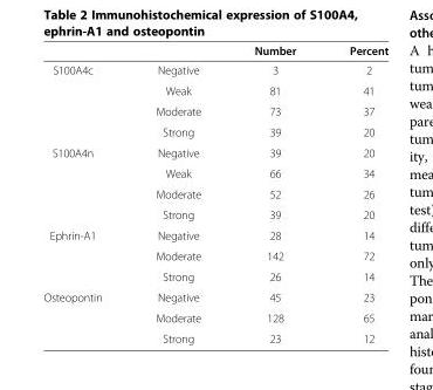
<table><thead><tr><td></td><td></td><td>Number</td><td>Percent</td></tr></thead><tbody><tr><td rowspan="4">S100A4c</td><td>Negative</td><td>3</td><td>2</td></tr><tr><td>Weak</td><td>81</td><td>41</td></tr><tr><td>Moderate</td><td>73</td><td>37</td></tr><tr><td>Strong</td><td>39</td><td>20</td></tr><tr><td rowspan="4">S100A4n</td><td>Negative</td><td>39</td><td>20</td></tr><tr><td>Weak</td><td>66</td><td>34</td></tr><tr><td>Moderate</td><td>52</td><td>26</td></tr><tr><td>Strong</td><td>39</td><td>20</td></tr><tr><td rowspan="3">Ephrin-A1</td><td>Negative</td><td>28</td><td>14</td></tr><tr><td>Moderate</td><td>142</td><td>72</td></tr><tr><td>Strong</td><td>26</td><td>14</td></tr><tr><td rowspan="3">Osteopontin</td><td>Negative</td><td>45</td><td>23</td></tr><tr><td>Moderate</td><td>128</td><td>65</td></tr><tr><td>Strong</td><td>23</td><td>12</td></tr></tbody></table>